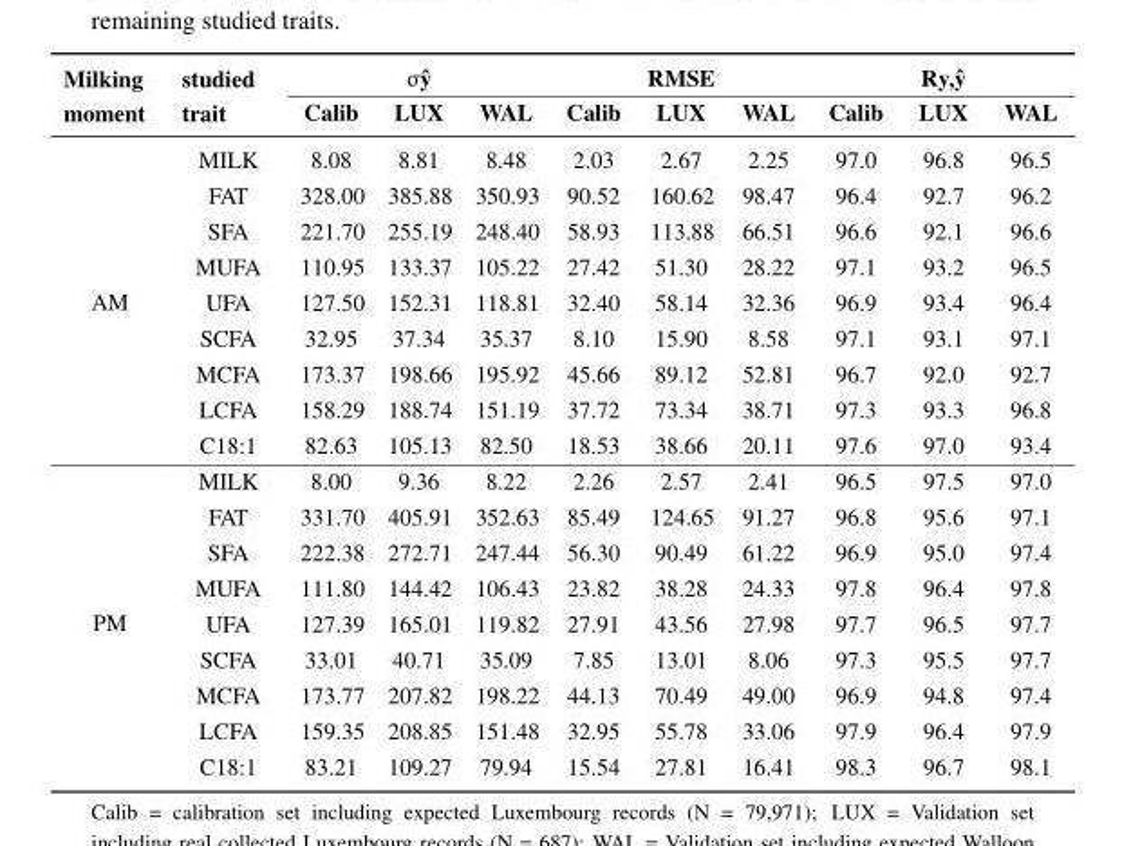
<table><thead><tr><td rowspan="2">Milking moment</td><td rowspan="2">studied trait</td><td colspan="3">σˆy</td><td colspan="3">RMSE</td><td colspan="3">Ry,ˆy</td></tr><tr><td>Calib</td><td>LUX</td><td>WAL</td><td>Calib</td><td>LUX</td><td>WAL</td><td>Calib</td><td>LUX</td><td>WAL</td></tr></thead><tbody><tr><td rowspan="9">AM</td><td>MILK</td><td>8.08</td><td>8.81</td><td>8.48</td><td>2.03</td><td>2.67</td><td>2.25</td><td>97.0</td><td>96.8</td><td>96.5</td></tr><tr><td>FAT</td><td>328.00</td><td>385.88</td><td>350.93</td><td>90.52</td><td>160.62</td><td>98.47</td><td>96.4</td><td>92.7</td><td>96.2</td></tr><tr><td>SFA</td><td>221.70</td><td>255.19</td><td>248.40</td><td>58.93</td><td>113.88</td><td>66.51</td><td>96.6</td><td>92.1</td><td>96.6</td></tr><tr><td>MUFA</td><td>110.95</td><td>133.37</td><td>105.22</td><td>27.42</td><td>51.30</td><td>28.22</td><td>97.1</td><td>93.2</td><td>96.5</td></tr><tr><td>UFA</td><td>127.50</td><td>152.31</td><td>118.81</td><td>32.40</td><td>58.14</td><td>32.36</td><td>96.9</td><td>93.4</td><td>96.4</td></tr><tr><td>SCFA</td><td>32.95</td><td>37.34</td><td>35.37</td><td>8.10</td><td>15.90</td><td>8.58</td><td>97.1</td><td>93.1</td><td>97.1</td></tr><tr><td>MCFA</td><td>173.37</td><td>198.66</td><td>195.92</td><td>45.66</td><td>89.12</td><td>52.81</td><td>96.7</td><td>92.0</td><td>92.7</td></tr><tr><td>LCFA</td><td>158.29</td><td>188.74</td><td>151.19</td><td>37.72</td><td>73.34</td><td>38.71</td><td>97.3</td><td>93.3</td><td>96.8</td></tr><tr><td>C18:1</td><td>82.63</td><td>105.13</td><td>82.50</td><td>18.53</td><td>38.66</td><td>20.11</td><td>97.6</td><td>97.0</td><td>93.4</td></tr><tr><td rowspan="9">PM</td><td>MILK</td><td>8.00</td><td>9.36</td><td>8.22</td><td>2.26</td><td>2.57</td><td>2.41</td><td>96.5</td><td>97.5</td><td>97.0</td></tr><tr><td>FAT</td><td>331.70</td><td>405.91</td><td>352.63</td><td>85.49</td><td>124.65</td><td>91.27</td><td>96.8</td><td>95.6</td><td>97.1</td></tr><tr><td>SFA</td><td>222.38</td><td>272.71</td><td>247.44</td><td>56.30</td><td>90.49</td><td>61.22</td><td>96.9</td><td>95.0</td><td>97.4</td></tr><tr><td>MUFA</td><td>111.80</td><td>144.42</td><td>106.43</td><td>23.82</td><td>38.28</td><td>24.33</td><td>97.8</td><td>96.4</td><td>97.8</td></tr><tr><td>UFA</td><td>127.39</td><td>165.01</td><td>119.82</td><td>27.91</td><td>43.56</td><td>27.98</td><td>97.7</td><td>96.5</td><td>97.7</td></tr><tr><td>SCFA</td><td>33.01</td><td>40.71</td><td>35.09</td><td>7.85</td><td>13.01</td><td>8.06</td><td>97.3</td><td>95.5</td><td>97.7</td></tr><tr><td>MCFA</td><td>173.77</td><td>207.82</td><td>198.22</td><td>44.13</td><td>70.49</td><td>49.00</td><td>96.9</td><td>94.8</td><td>97.4</td></tr><tr><td>LCFA</td><td>159.35</td><td>208.85</td><td>151.48</td><td>32.95</td><td>55.78</td><td>33.06</td><td>97.9</td><td>96.4</td><td>97.9</td></tr><tr><td>C18:1</td><td>83.21</td><td>109.27</td><td>79.94</td><td>15.54</td><td>27.81</td><td>16.41</td><td>98.3</td><td>96.7</td><td>98.1</td></tr></tbody></table>